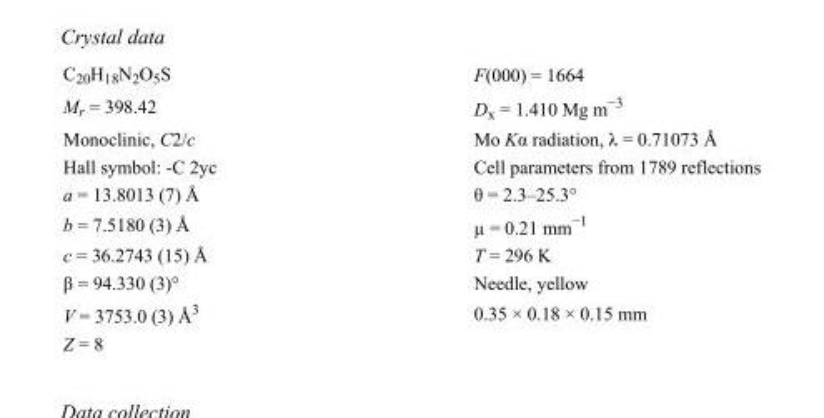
<table><tbody><tr><td>C<sub>20</sub>H<sub>18</sub>N<sub>2</sub>O<sub>5</sub>S</td><td>F(000) = 1664</td></tr><tr><td>M<sub>r</sub> = 398.42</td><td>D<sub>x</sub> = 1.410 Mg m<sup>−3</sup></td></tr><tr><td>Monoclinic, C2/c</td><td>Mo Kα radiation, λ = 0.71073 Å</td></tr><tr><td>Hall symbol: -C 2yc</td><td>Cell parameters from 1789 reflections</td></tr><tr><td>a = 13.8013 (7) Å</td><td>θ = 2.3–25.3°</td></tr><tr><td>b = 7.5180 (3) Å</td><td>µ = 0.21 mm<sup>−1</sup></td></tr><tr><td>c = 36.2743 (15) Å</td><td>T = 296 K</td></tr><tr><td>β = 94.330 (3)°</td><td>Needle, yellow</td></tr><tr><td>V = 3753.0 (3) Å<sup>3</sup></td><td>0.35 × 0.18 × 0.15 mm</td></tr><tr><td>Z = 8</td><td></td></tr></tbody></table>